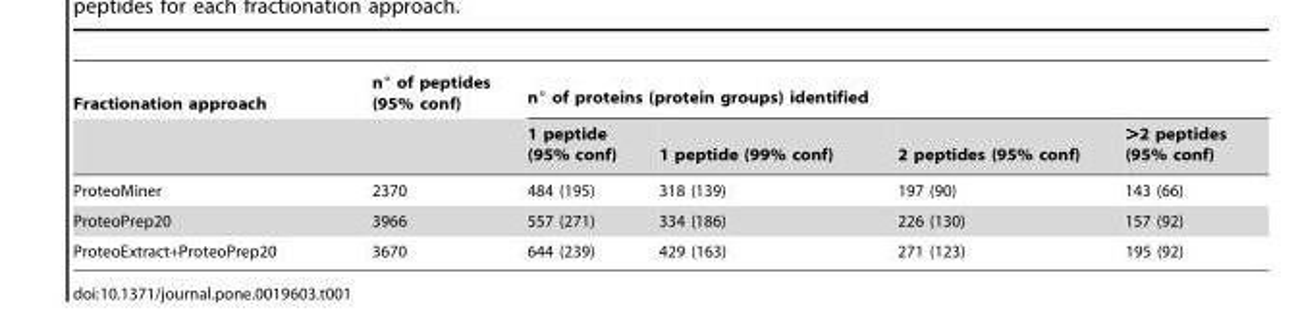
<table><thead><tr><td rowspan="2">Fractionation approach</td><td rowspan="2">n° of peptides (95% conf)</td><td colspan="4">n° of proteins (protein groups) identified</td></tr><tr><td>1 peptide (95% conf)</td><td>1 peptide (99% conf)</td><td>2 peptides (95% conf)</td><td>&gt;2 peptides (95% conf)</td></tr></thead><tbody><tr><td>ProteoMiner</td><td>2370</td><td>484 (195)</td><td>318 (139)</td><td>197 (90)</td><td>143 (66)</td></tr><tr><td>ProteoPrep20</td><td>3966</td><td>557 (271)</td><td>334 (186)</td><td>226 (130)</td><td>157 (92)</td></tr><tr><td>ProteoExtract+ProteoPrep20</td><td>3670</td><td>644 (239)</td><td>429 (163)</td><td>271 (123)</td><td>195 (92)</td></tr></tbody></table>